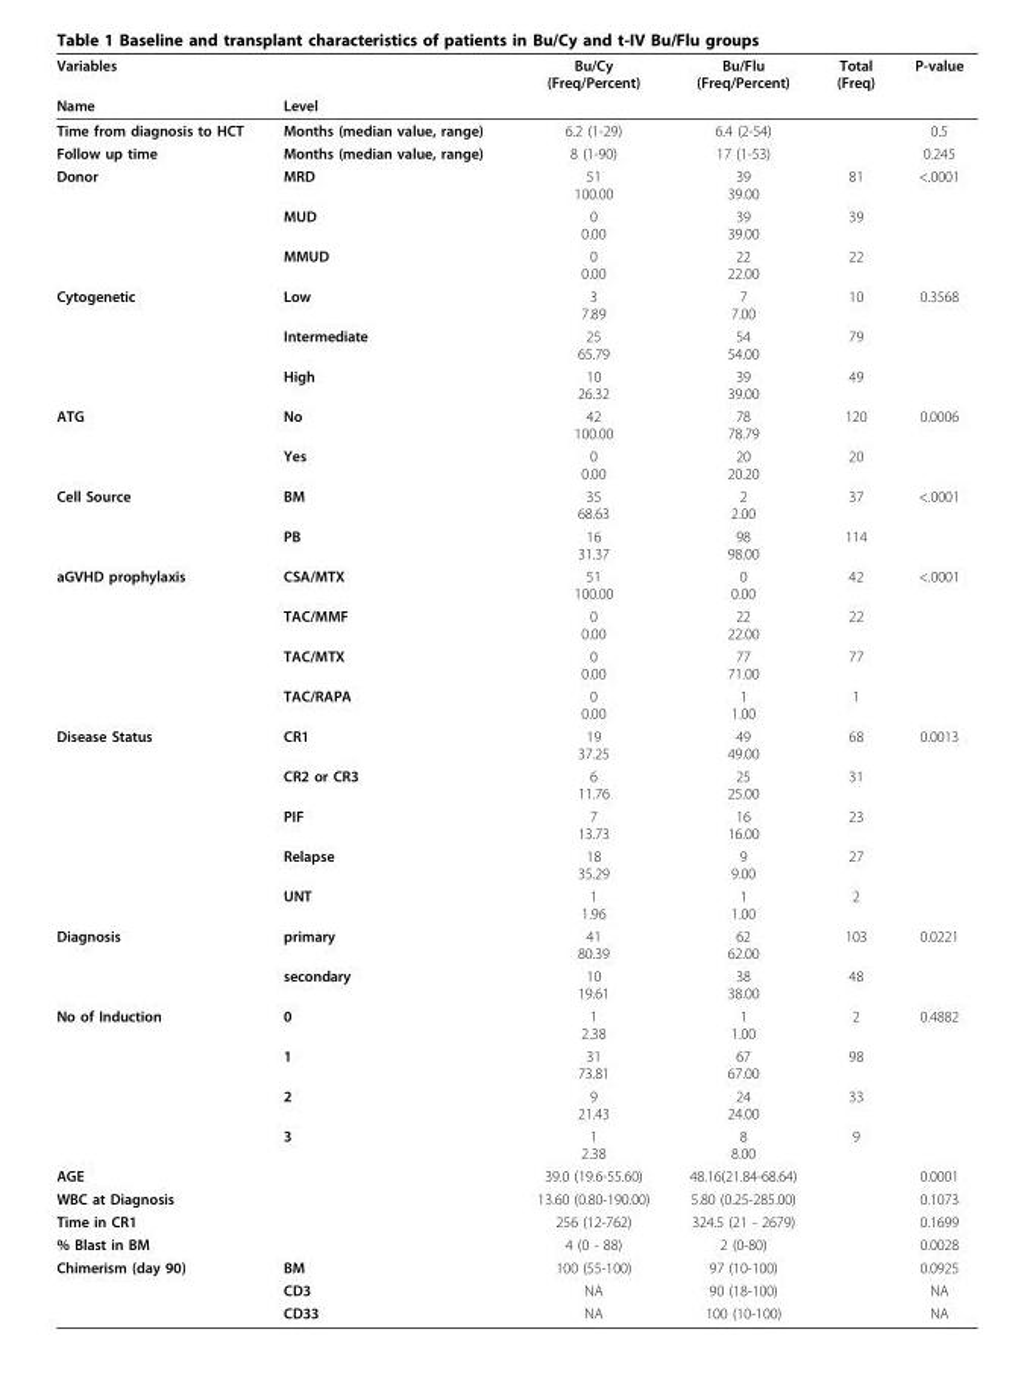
<table><thead><tr><td colspan="2">Variables</td><td rowspan="2">Bu/Cy (Freq/Percent)</td><td rowspan="2">Bu/Flu (Freq/Percent)</td><td rowspan="2">Total (Freq)</td><td rowspan="2">P-value</td></tr><tr><td>Name</td><td>Level</td></tr></thead><tbody><tr><td>Time from diagnosis to HCT</td><td>Months (median value, range)</td><td>6.2 (1-29)</td><td>6.4 (2-54)</td><td></td><td>0.5</td></tr><tr><td>Follow up time</td><td>Months (median value, range)</td><td>8 (1-90)</td><td>17 (1-53)</td><td></td><td>0.245</td></tr><tr><td rowspan="3">Donor</td><td>MRD</td><td>51 100.00</td><td>39 39.00</td><td>81</td><td>&lt;.0001</td></tr><tr><td>MUD</td><td>0 0.00</td><td>39 39.00</td><td>39</td><td></td></tr><tr><td>MMUD</td><td>0 0.00</td><td>22 22.00</td><td>22</td><td></td></tr><tr><td rowspan="3">Cytogenetic</td><td>Low</td><td>3 7.89</td><td>7 7.00</td><td>10</td><td>0.3568</td></tr><tr><td>Intermediate</td><td>25 65.79</td><td>54 54.00</td><td>79</td><td></td></tr><tr><td>High</td><td>10 26.32</td><td>39 39.00</td><td>49</td><td></td></tr><tr><td rowspan="2">ATG</td><td>No</td><td>42 100.00</td><td>78 78.79</td><td>120</td><td>0.0006</td></tr><tr><td>Yes</td><td>0 0.00</td><td>20 20.20</td><td>20</td><td></td></tr><tr><td rowspan="2">Cell Source</td><td>BM</td><td>35 68.63</td><td>2 2.00</td><td>37</td><td>&lt;.0001</td></tr><tr><td>PB</td><td>16 31.37</td><td>98 98.00</td><td>114</td><td></td></tr><tr><td rowspan="4">aGVHD prophylaxis</td><td>CSA/MTX</td><td>51 100.00</td><td>0 0.00</td><td>42</td><td>&lt;.0001</td></tr><tr><td>TAC/MMF</td><td>0 0.00</td><td>22 22.00</td><td>22</td><td></td></tr><tr><td>TAC/MTX</td><td>0 0.00</td><td>77 71.00</td><td>77</td><td></td></tr><tr><td>TAC/RAPA</td><td>0 0.00</td><td>1 1.00</td><td>1</td><td></td></tr><tr><td rowspan="5">Disease Status</td><td>CR1</td><td>19 37.25</td><td>49 49.00</td><td>68</td><td>0.0013</td></tr><tr><td>CR2 or CR3</td><td>6 11.76</td><td>25 25.00</td><td>31</td><td></td></tr><tr><td>PIF</td><td>7 13.73</td><td>16 16.00</td><td>23</td><td></td></tr><tr><td>Relapse</td><td>18 35.29</td><td>9 9.00</td><td>27</td><td></td></tr><tr><td>UNT</td><td>1 1.96</td><td>1 1.00</td><td>2</td><td></td></tr><tr><td rowspan="2">Diagnosis</td><td>primary</td><td>41 80.39</td><td>62 62.00</td><td>103</td><td>0.0221</td></tr><tr><td>secondary</td><td>10 19.61</td><td>38 38.00</td><td>48</td><td></td></tr><tr><td rowspan="4">No of Induction</td><td>0</td><td>1 2.38</td><td>1 1.00</td><td>2</td><td>0.4882</td></tr><tr><td>1</td><td>31 73.81</td><td>67 67.00</td><td>98</td><td></td></tr><tr><td>2</td><td>9 21.43</td><td>24 24.00</td><td>33</td><td></td></tr><tr><td>3</td><td>1 2.38</td><td>8 8.00</td><td>9</td><td></td></tr><tr><td colspan="2">AGE</td><td>39.0 (19.6-55.60)</td><td>48.16(21.84-68.64)</td><td></td><td>0.0001</td></tr><tr><td colspan="2">WBC at Diagnosis</td><td>13.60 (0.80-190.00)</td><td>5.80 (0.25-285.00)</td><td></td><td>0.1073</td></tr><tr><td colspan="2">Time in CR1</td><td>256 (12-762)</td><td>324.5 (21 - 2679)</td><td></td><td>0.1699</td></tr><tr><td colspan="2">% Blast in BM</td><td>4 (0 - 88)</td><td>2 (0-80)</td><td></td><td>0.0028</td></tr><tr><td rowspan="3">Chimerism (day 90)</td><td>BM</td><td>100 (55-100)</td><td>97 (10-100)</td><td></td><td>0.0925</td></tr><tr><td>CD3</td><td>NA</td><td>90 (18-100)</td><td></td><td>NA</td></tr><tr><td>CD33</td><td>NA</td><td>100 (10-100)</td><td></td><td>NA</td></tr></tbody></table>